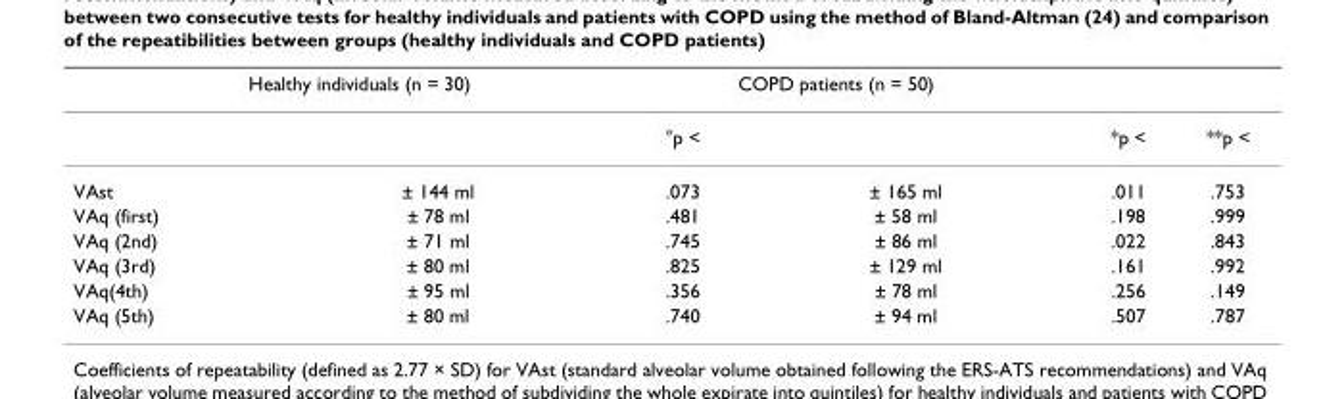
<table><thead><tr><td></td><td>Healthy individuals (n = 30)</td><td></td><td>COPD patients (n = 50)</td><td></td><td></td></tr></thead><tbody><tr><td></td><td></td><td>°p &lt;</td><td></td><td>*p &lt;</td><td>**p &lt;</td></tr><tr><td>VAst</td><td>± 144 ml</td><td>.073</td><td>± 165 ml</td><td>.011</td><td>.753</td></tr><tr><td>VAq (first)</td><td>± 78 ml</td><td>.481</td><td>± 58 ml</td><td>.198</td><td>.999</td></tr><tr><td>VAq (2nd)</td><td>± 71 ml</td><td>.745</td><td>± 86 ml</td><td>.022</td><td>.843</td></tr><tr><td>VAq (3rd)</td><td>± 80 ml</td><td>.825</td><td>± 129 ml</td><td>.161</td><td>.992</td></tr><tr><td>VAq(4th)</td><td>± 95 ml</td><td>.356</td><td>± 78 ml</td><td>.256</td><td>.149</td></tr><tr><td>VAq (5th)</td><td>± 80 ml</td><td>.740</td><td>± 94 ml</td><td>.507</td><td>.787</td></tr></tbody></table>